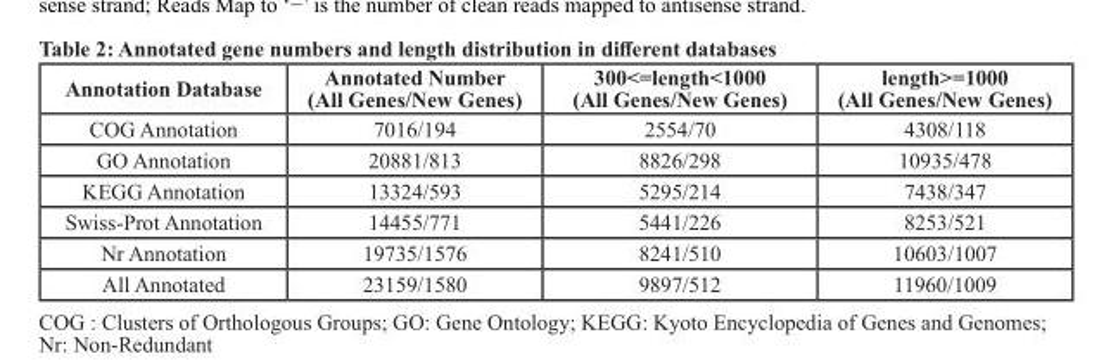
<table><thead><tr><td>Annotation Database</td><td>Annotated Number (All Genes/New Genes)</td><td>300&lt;=length&lt;1000 (All Genes/New Genes)</td><td>length&gt;=1000 (All Genes/New Genes)</td></tr></thead><tbody><tr><td>COG Annotation</td><td>7016/194</td><td>2554/70</td><td>4308/118</td></tr><tr><td>GO Annotation</td><td>20881/813</td><td>8826/298</td><td>10935/478</td></tr><tr><td>KEGG Annotation</td><td>13324/593</td><td>5295/214</td><td>7438/347</td></tr><tr><td>Swiss-Prot Annotation</td><td>14455/771</td><td>5441/226</td><td>8253/521</td></tr><tr><td>Nr Annotation</td><td>19735/1576</td><td>8241/510</td><td>10603/1007</td></tr><tr><td>All Annotated</td><td>23159/1580</td><td>9897/512</td><td>11960/1009</td></tr></tbody></table>